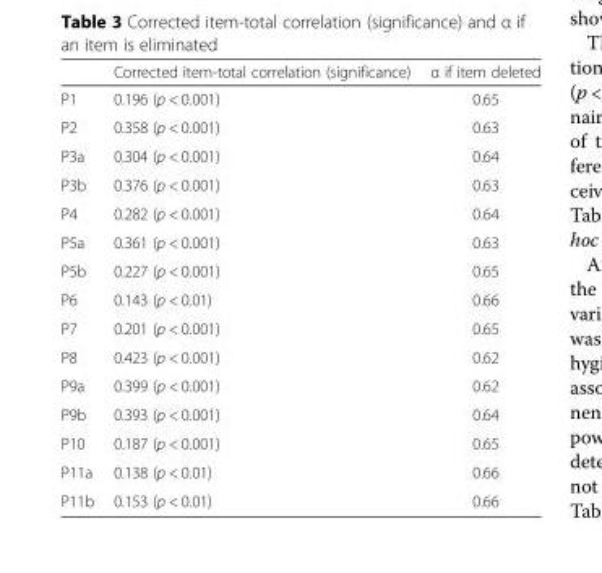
<table><thead><tr><td></td><td>Corrected item-total correlation (significance)</td><td>α if item deleted</td></tr></thead><tbody><tr><td>P1</td><td>0.196 (p &lt; 0.001)</td><td>0.65</td></tr><tr><td>P2</td><td>0.358 (p &lt; 0.001)</td><td>0.63</td></tr><tr><td>P3a</td><td>0.304 (p &lt; 0.001)</td><td>0.64</td></tr><tr><td>P3b</td><td>0.376 (p &lt; 0.001)</td><td>0.63</td></tr><tr><td>P4</td><td>0.282 (p &lt; 0.001)</td><td>0.64</td></tr><tr><td>P5a</td><td>0.361 (p &lt; 0.001)</td><td>0.63</td></tr><tr><td>P5b</td><td>0.227 (p &lt; 0.001)</td><td>0.65</td></tr><tr><td>P6</td><td>0.143 (p &lt; 0.01)</td><td>0.66</td></tr><tr><td>P7</td><td>0.201 (p &lt; 0.001)</td><td>0.65</td></tr><tr><td>P8</td><td>0.423 (p &lt; 0.001)</td><td>0.62</td></tr><tr><td>P9a</td><td>0.399 (p &lt; 0.001)</td><td>0.62</td></tr><tr><td>P9b</td><td>0.393 (p &lt; 0.001)</td><td>0.64</td></tr><tr><td>P10</td><td>0.187 (p &lt; 0.001)</td><td>0.65</td></tr><tr><td>P11a</td><td>0.138 (p &lt; 0.01)</td><td>0.66</td></tr><tr><td>P11b</td><td>0.153 (p &lt; 0.01)</td><td>0.66</td></tr></tbody></table>